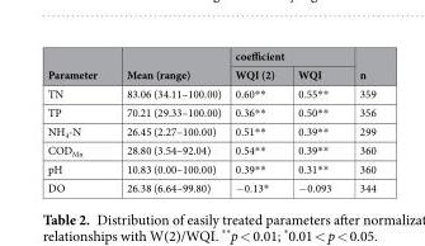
<table><thead><tr><td rowspan="2">Parameter</td><td rowspan="2">Mean (range)</td><td colspan="2">coefficient</td><td rowspan="2">n</td></tr><tr><td>WQI (2)</td><td>WQI</td></tr></thead><tbody><tr><td>TN</td><td>83.06 (34.11–100.00)</td><td>0.60**</td><td>0.55**</td><td>359</td></tr><tr><td>TP</td><td>70.21 (29.33–100.00)</td><td>0.36**</td><td>0.50**</td><td>356</td></tr><tr><td>NH<sub>4</sub>-N</td><td>26.45 (2.27–100.00)</td><td>0.51**</td><td>0.39**</td><td>299</td></tr><tr><td>COD<sub>Mn</sub></td><td>28.80 (3.54–92.04)</td><td>0.54**</td><td>0.39**</td><td>360</td></tr><tr><td>pH</td><td>10.83 (0.00–100.00)</td><td>0.39**</td><td>0.31**</td><td>360</td></tr><tr><td>DO</td><td>26.38 (6.64–99.80)</td><td>−0.13*</td><td>−0.093</td><td>344</td></tr></tbody></table>